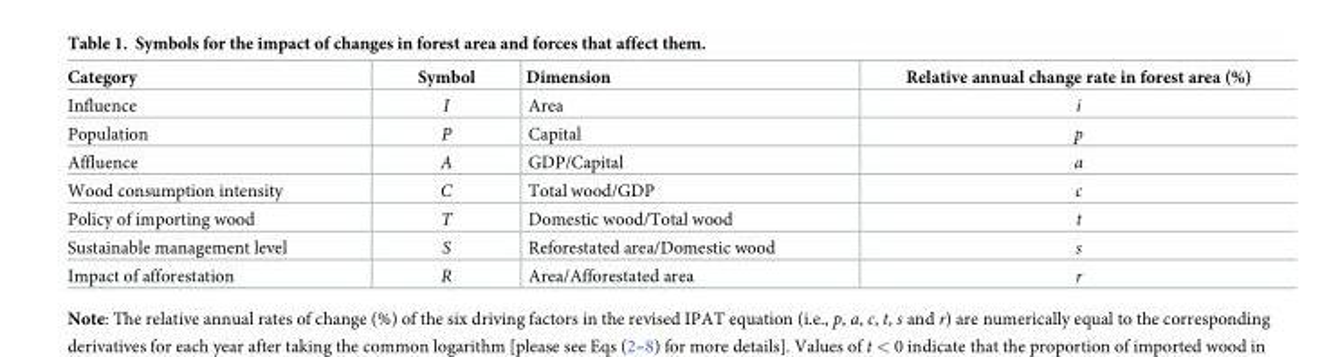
<table><thead><tr><td>Category</td><td>Symbol</td><td>Dimension</td><td>Relative annual change rate in forest area (%)</td></tr></thead><tbody><tr><td>Influence</td><td>I</td><td>Area</td><td>i</td></tr><tr><td>Population</td><td>P</td><td>Capital</td><td>p</td></tr><tr><td>Affluence</td><td>A</td><td>GDP/Capital</td><td>a</td></tr><tr><td>Wood consumption intensity</td><td>C</td><td>Total wood/GDP</td><td>c</td></tr><tr><td>Policy of importing wood</td><td>T</td><td>Domestic wood/Total wood</td><td>t</td></tr><tr><td>Sustainable management level</td><td>S</td><td>Reforestated area/Domestic wood</td><td>s</td></tr><tr><td>Impact of afforestation</td><td>R</td><td>Area/Afforestated area</td><td>r</td></tr></tbody></table>